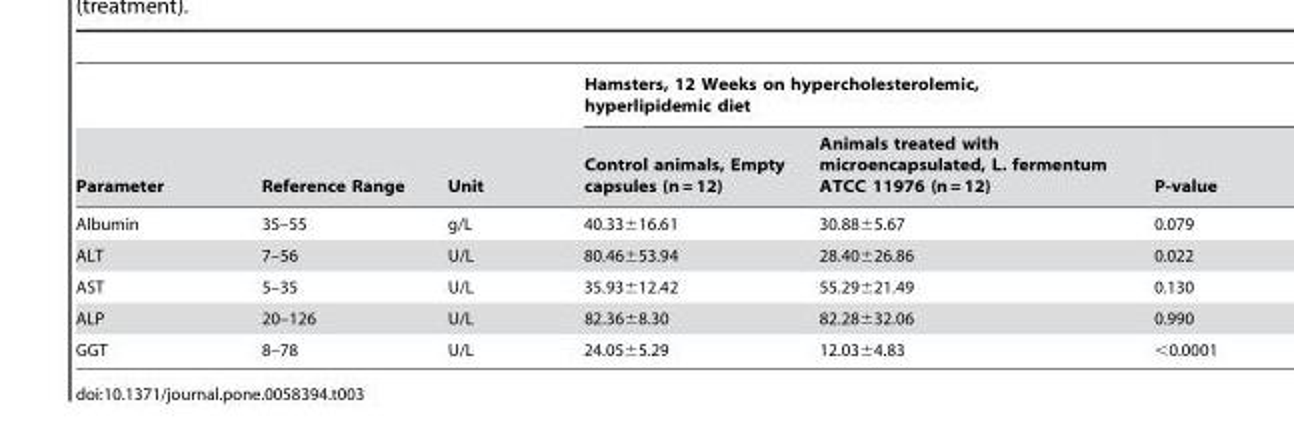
<table><thead><tr><td rowspan="2">Parameter</td><td rowspan="2">Reference Range</td><td rowspan="2">Unit</td><td colspan="3">Hamsters, 12 Weeks on hypercholesterolemic, hyperlipidemic diet</td></tr><tr><td>Control animals, Empty capsules (n = 12)</td><td>Animals treated with microencapsulated, L. fermentum ATCC 11976 (n = 12)</td><td>P-value</td></tr></thead><tbody><tr><td>Albumin</td><td>35–55</td><td>g/L</td><td>40.33±16.61</td><td>30.88±5.67</td><td>0.079</td></tr><tr><td>ALT</td><td>7–56</td><td>U/L</td><td>80.46±53.94</td><td>28.40±26.86</td><td>0.022</td></tr><tr><td>AST</td><td>5–35</td><td>U/L</td><td>35.93±12.42</td><td>55.29±21.49</td><td>0.130</td></tr><tr><td>ALP</td><td>20–126</td><td>U/L</td><td>82.36±8.30</td><td>82.28±32.06</td><td>0.990</td></tr><tr><td>GGT</td><td>8–78</td><td>U/L</td><td>24.05±5.29</td><td>12.03±4.83</td><td>&lt;0.0001</td></tr></tbody></table>